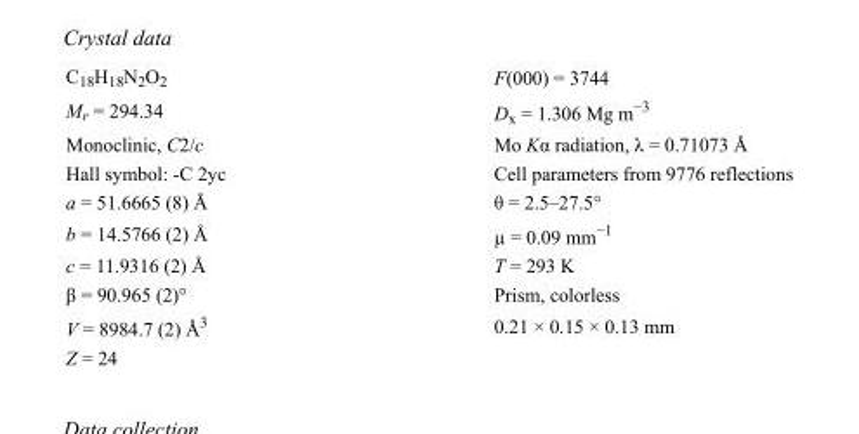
<table><tbody><tr><td>C<sub>18</sub>H<sub>18</sub>N<sub>2</sub>O<sub>2</sub></td><td>F(000) = 3744</td></tr><tr><td>M<sub>r</sub> = 294.34</td><td>D<sub>x</sub> = 1.306 Mg m<sup>−3</sup></td></tr><tr><td>Monoclinic, C2/c</td><td>Mo Kα radiation, λ = 0.71073 Å</td></tr><tr><td>Hall symbol: -C 2yc</td><td>Cell parameters from 9776 reflections</td></tr><tr><td>a = 51.6665 (8) Å</td><td>θ = 2.5–27.5°</td></tr><tr><td>b = 14.5766 (2) Å</td><td>µ = 0.09 mm<sup>−1</sup></td></tr><tr><td>c = 11.9316 (2) Å</td><td>T = 293 K</td></tr><tr><td>β = 90.965 (2)°</td><td>Prism, colorless</td></tr><tr><td>V = 8984.7 (2) Å<sup>3</sup></td><td>0.21 × 0.15 × 0.13 mm</td></tr><tr><td>Z = 24</td><td></td></tr></tbody></table>